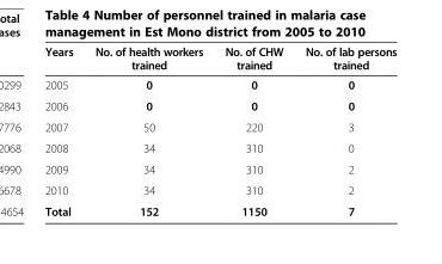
<table><thead><tr><td>Years</td><td>No. of health workers trained</td><td>No. of CHW trained</td><td>No. of lab persons trained</td></tr></thead><tbody><tr><td>2005</td><td>0</td><td>0</td><td>0</td></tr><tr><td>2006</td><td>0</td><td>0</td><td>0</td></tr><tr><td>2007</td><td>50</td><td>220</td><td>3</td></tr><tr><td>2008</td><td>34</td><td>310</td><td>0</td></tr><tr><td>2009</td><td>34</td><td>310</td><td>2</td></tr><tr><td>2010</td><td>34</td><td>310</td><td>2</td></tr><tr><td>Total</td><td>152</td><td>1150</td><td>7</td></tr></tbody></table>